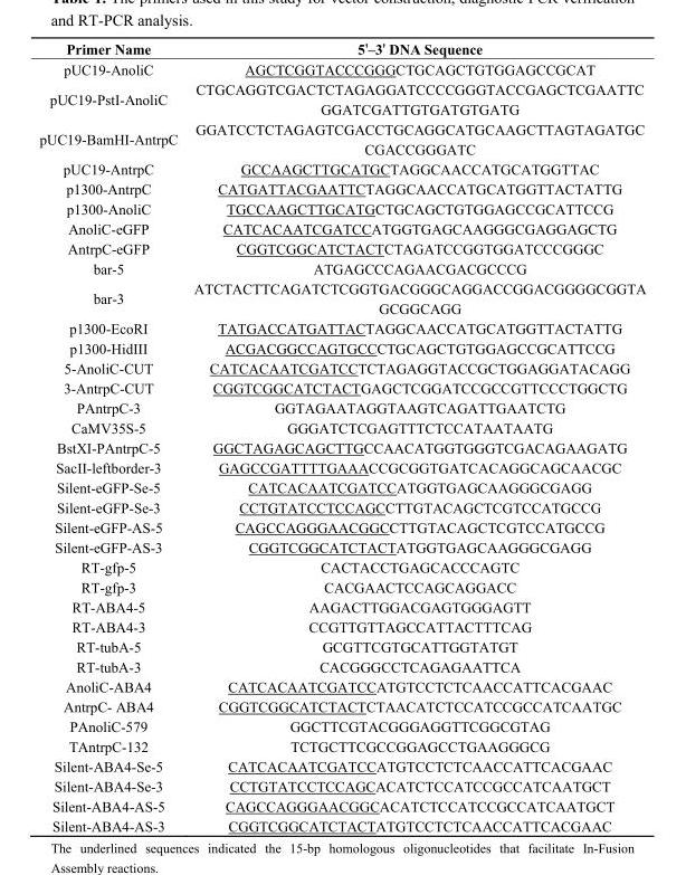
<table><thead><tr><td>Primer Name</td><td>5&#x27;–3&#x27; DNA Sequence</td></tr></thead><tbody><tr><td>pUC19-AnoliC</td><td>AGCTCGGTACCCGGGCTGCAGCTGTGGAGCCGCAT</td></tr><tr><td>pUC19-PstI-AnoliC</td><td>CTGCAGGTCGACTCTAGAGGATCCCCGGGTACCGAGCTCGAATTC GGATCGATTGTGATGTGATG</td></tr><tr><td>pUC19-BamHI-AntrpC</td><td>GGATCCTCTAGAGTCGACCTGCAGGCATGCAAGCTTAGTAGATGC CGACCGGGATC</td></tr><tr><td>pUC19-AntrpC</td><td>GCCAAGCTTGCATGCTAGGCAACCATGCATGGTTAC</td></tr><tr><td>p1300-AntrpC</td><td>CATGATTACGAATTCTAGGCAACCATGCATGGTTACTATTG</td></tr><tr><td>p1300-AnoliC</td><td>TGCCAAGCTTGCATGCTGCAGCTGTGGAGCCGCATTCCG</td></tr><tr><td>AnoliC-eGFP</td><td>CATCACAATCGATCCATGGTGAGCAAGGGCGAGGAGCTG</td></tr><tr><td>AntrpC-eGFP</td><td>CGGTCGGCATCTACTCTAGATCCGGTGGATCCCGGGC</td></tr><tr><td>bar-5</td><td>ATGAGCCCAGAACGACGCCCG</td></tr><tr><td>bar-3</td><td>ATCTACTTCAGATCTCGGTGACGGGCAGGACCGGACGGGGCGGTA GCGGCAGG</td></tr><tr><td>p1300-EcoRI</td><td>TATGACCATGATTACTAGGCAACCATGCATGGTTACTATTG</td></tr><tr><td>p1300-HidIII</td><td>ACGACGGCCAGTGCCCTGCAGCTGTGGAGCCGCATTCCG</td></tr><tr><td>5-AnoliC-CUT</td><td>CATCACAATCGATCCTCTAGAGGTACCGCTGGAGGATACAGG</td></tr><tr><td>3-AntrpC-CUT</td><td>CGGTCGGCATCTACTGAGCTCGGATCCGCCGTTCCCTGGCTG</td></tr><tr><td>PAntrpC-3</td><td>GGTAGAATAGGTAAGTCAGATTGAATCTG</td></tr><tr><td>CaMV35S-5</td><td>GGGATCTCGAGTTTCTCCATAATAATG</td></tr><tr><td>BstXI-PAntrpC-5</td><td>GGCTAGAGCAGCTTGCCAACATGGTGGGTCGACAGAAGATG</td></tr><tr><td>SacII-leftborder-3</td><td>GAGCCGATTTTGAAACCGCGGTGATCACAGGCAGCAACGC</td></tr><tr><td>Silent-eGFP-Se-5</td><td>CATCACAATCGATCCATGGTGAGCAAGGGCGAGG</td></tr><tr><td>Silent-eGFP-Se-3</td><td>CCTGTATCCTCCAGCCTTGTACAGCTCGTCCATGCCG</td></tr><tr><td>Silent-eGFP-AS-5</td><td>CAGCCAGGGAACGGCCTTGTACAGCTCGTCCATGCCG</td></tr><tr><td>Silent-eGFP-AS-3</td><td>CGGTCGGCATCTACTATGGTGAGCAAGGGCGAGG</td></tr><tr><td>RT-gfp-5</td><td>CACTACCTGAGCACCCAGTC</td></tr><tr><td>RT-gfp-3</td><td>CACGAACTCCAGCAGGACC</td></tr><tr><td>RT-ABA4-5</td><td>AAGACTTGGACGAGTGGGAGTT</td></tr><tr><td>RT-ABA4-3</td><td>CCGTTGTTAGCCATTACTTTCAG</td></tr><tr><td>RT-tubA-5</td><td>GCGTTCGTGCATTGGTATGT</td></tr><tr><td>RT-tubA-3</td><td>CACGGGCCTCAGAGAATTCA</td></tr><tr><td>AnoliC-ABA4</td><td>CATCACAATCGATCCATGTCCTCTCAACCATTCACGAAC</td></tr><tr><td>AntrpC- ABA4</td><td>CGGTCGGCATCTACTCTAACATCTCCATCCGCCATCAATGC</td></tr><tr><td>PAnoliC-579</td><td>GGCTTCGTACGGGAGGTTCGGCGTAG</td></tr><tr><td>TAntrpC-132</td><td>TCTGCTTCGCCGGAGCCTGAAGGGCG</td></tr><tr><td>Silent-ABA4-Se-5</td><td>CATCACAATCGATCCATGTCCTCTCAACCATTCACGAAC</td></tr><tr><td>Silent-ABA4-Se-3</td><td>CCTGTATCCTCCAGCACATCTCCATCCGCCATCAATGCT</td></tr><tr><td>Silent-ABA4-AS-5</td><td>CAGCCAGGGAACGGCACATCTCCATCCGCCATCAATGCT</td></tr><tr><td>Silent-ABA4-AS-3</td><td>CGGTCGGCATCTACTATGTCCTCTCAACCATTCACGAAC</td></tr></tbody></table>